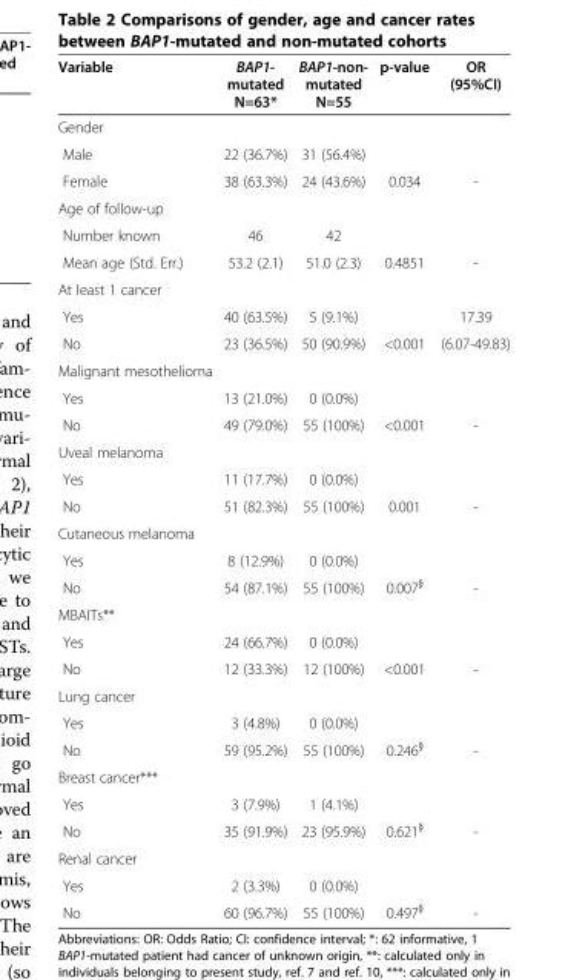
<table><thead><tr><td>Variable</td><td>BAP1- mutated N=63*</td><td>BAP1-non- mutated N=55</td><td>p-value</td><td>OR (95%CI)</td></tr></thead><tbody><tr><td colspan="5">Gender</td></tr><tr><td>Male</td><td>22 (36.7%)</td><td>31 (56.4%)</td><td></td><td></td></tr><tr><td>Female</td><td>38 (63.3%)</td><td>24 (43.6%)</td><td>0.034</td><td>-</td></tr><tr><td colspan="5">Age of follow-up</td></tr><tr><td>Number known</td><td>46</td><td>42</td><td></td><td></td></tr><tr><td>Mean age (Std. Err.)</td><td>53.2 (2.1)</td><td>51.0 (2.3)</td><td>0.4851</td><td>-</td></tr><tr><td colspan="5">At least 1 cancer</td></tr><tr><td>Yes</td><td>40 (63.5%)</td><td>5 (9.1%)</td><td></td><td>17.39</td></tr><tr><td>No</td><td>23 (36.5%)</td><td>50 (90.9%)</td><td>&lt;0.001</td><td>(6.07-49.83)</td></tr><tr><td colspan="5">Malignant mesothelioma</td></tr><tr><td>Yes</td><td>13 (21.0%)</td><td>0 (0.0%)</td><td></td><td></td></tr><tr><td>No</td><td>49 (79.0%)</td><td>55 (100%)</td><td>&lt;0.001</td><td>-</td></tr><tr><td colspan="5">Uveal melanoma</td></tr><tr><td>Yes</td><td>11 (17.7%)</td><td>0 (0.0%)</td><td></td><td></td></tr><tr><td>No</td><td>51 (82.3%)</td><td>55 (100%)</td><td>0.001</td><td>-</td></tr><tr><td colspan="5">Cutaneous melanoma</td></tr><tr><td>Yes</td><td>8 (12.9%)</td><td>0 (0.0%)</td><td></td><td></td></tr><tr><td>No</td><td>54 (87.1%)</td><td>55 (100%)</td><td>0.007<sup>§</sup></td><td>-</td></tr><tr><td colspan="5">MBAITs**</td></tr><tr><td>Yes</td><td>24 (66.7%)</td><td>0 (0.0%)</td><td></td><td></td></tr><tr><td>No</td><td>12 (33.3%)</td><td>12 (100%)</td><td>&lt;0.001</td><td>-</td></tr><tr><td colspan="5">Lung cancer</td></tr><tr><td>Yes</td><td>3 (4.8%)</td><td>0 (0.0%)</td><td></td><td></td></tr><tr><td>No</td><td>59 (95.2%)</td><td>55 (100%)</td><td>0.246<sup>§</sup></td><td>-</td></tr><tr><td colspan="5">Breast cancer***</td></tr><tr><td>Yes</td><td>3 (7.9%)</td><td>1 (4.1%)</td><td></td><td></td></tr><tr><td>No</td><td>35 (91.9%)</td><td>23 (95.9%)</td><td>0.621<sup>§</sup></td><td>-</td></tr><tr><td colspan="5">Renal cancer</td></tr><tr><td>Yes</td><td>2 (3.3%)</td><td>0 (0.0%)</td><td></td><td></td></tr><tr><td>No</td><td>60 (96.7%)</td><td>55 (100%)</td><td>0.497<sup>§</sup></td><td>-</td></tr></tbody></table>